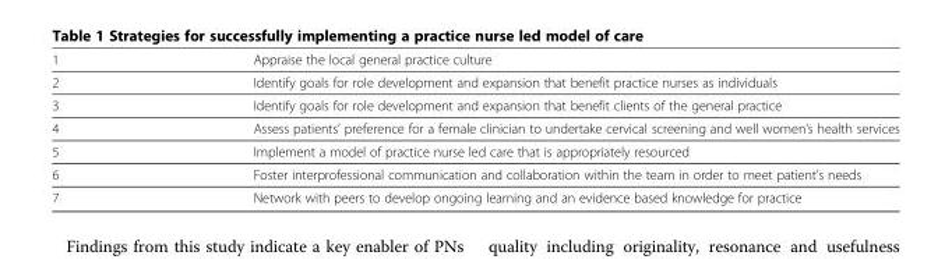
<table><tbody><tr><td>1</td><td>Appraise the local general practice culture</td></tr><tr><td>2</td><td>Identify goals for role development and expansion that benefit practice nurses as individuals</td></tr><tr><td>3</td><td>Identify goals for role development and expansion that benefit clients of the general practice</td></tr><tr><td>4</td><td>Assess patients’ preference for a female clinician to undertake cervical screening and well women’s health services</td></tr><tr><td>5</td><td>Implement a model of practice nurse led care that is appropriately resourced</td></tr><tr><td>6</td><td>Foster interprofessional communication and collaboration within the team in order to meet patient’s needs</td></tr><tr><td>7</td><td>Network with peers to develop ongoing learning and an evidence based knowledge for practice</td></tr></tbody></table>